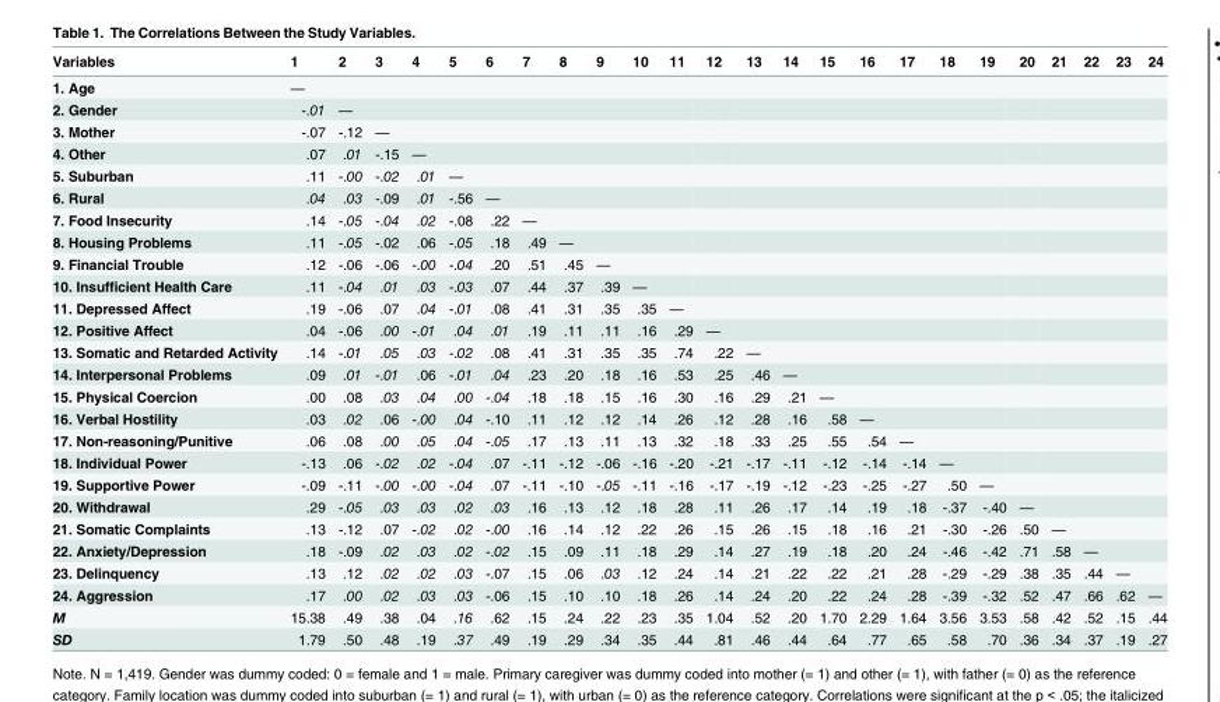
<table><thead><tr><td>Variables</td><td>1</td><td>2</td><td>3</td><td>4</td><td>5</td><td>6</td><td>7</td><td>8</td><td>9</td><td>10</td><td>11</td><td>12</td><td>13</td><td>14</td><td>15</td><td>16</td><td>17</td><td>18</td><td>19</td><td>20</td><td>21</td><td>22</td><td>23</td><td>24</td></tr></thead><tbody><tr><td>1. Age</td><td>—</td><td></td><td></td><td></td><td></td><td></td><td></td><td></td><td></td><td></td><td></td><td></td><td></td><td></td><td></td><td></td><td></td><td></td><td></td><td></td><td></td><td></td><td></td><td></td></tr><tr><td>2. Gender</td><td>-.01</td><td>—</td><td></td><td></td><td></td><td></td><td></td><td></td><td></td><td></td><td></td><td></td><td></td><td></td><td></td><td></td><td></td><td></td><td></td><td></td><td></td><td></td><td></td><td></td></tr><tr><td>3. Mother</td><td>-.07</td><td>-.12</td><td>—</td><td></td><td></td><td></td><td></td><td></td><td></td><td></td><td></td><td></td><td></td><td></td><td></td><td></td><td></td><td></td><td></td><td></td><td></td><td></td><td></td><td></td></tr><tr><td>4. Other</td><td>.07</td><td>.01</td><td>-.15</td><td>—</td><td></td><td></td><td></td><td></td><td></td><td></td><td></td><td></td><td></td><td></td><td></td><td></td><td></td><td></td><td></td><td></td><td></td><td></td><td></td><td></td></tr><tr><td>5. Suburban</td><td>.11</td><td>-.00</td><td>-.02</td><td>.01</td><td>—</td><td></td><td></td><td></td><td></td><td></td><td></td><td></td><td></td><td></td><td></td><td></td><td></td><td></td><td></td><td></td><td></td><td></td><td></td><td></td></tr><tr><td>6. Rural</td><td>.04</td><td>.03</td><td>-.09</td><td>.01</td><td>-.56</td><td>—</td><td></td><td></td><td></td><td></td><td></td><td></td><td></td><td></td><td></td><td></td><td></td><td></td><td></td><td></td><td></td><td></td><td></td><td></td></tr><tr><td>7. Food Insecurity</td><td>.14</td><td>-.05</td><td>-.04</td><td>.02</td><td>-.08</td><td>.22</td><td>—</td><td></td><td></td><td></td><td></td><td></td><td></td><td></td><td></td><td></td><td></td><td></td><td></td><td></td><td></td><td></td><td></td><td></td></tr><tr><td>8. Housing Problems</td><td>.11</td><td>-.05</td><td>-.02</td><td>.06</td><td>-.05</td><td>.18</td><td>.49</td><td>—</td><td></td><td></td><td></td><td></td><td></td><td></td><td></td><td></td><td></td><td></td><td></td><td></td><td></td><td></td><td></td><td></td></tr><tr><td>9. Financial Trouble</td><td>.12</td><td>-.06</td><td>-.06</td><td>-.00</td><td>-.04</td><td>.20</td><td>.51</td><td>.45</td><td>—</td><td></td><td></td><td></td><td></td><td></td><td></td><td></td><td></td><td></td><td></td><td></td><td></td><td></td><td></td><td></td></tr><tr><td>10. Insufficient Health Care</td><td>.11</td><td>-.04</td><td>.01</td><td>.03</td><td>-.03</td><td>.07</td><td>.44</td><td>.37</td><td>.39</td><td>—</td><td></td><td></td><td></td><td></td><td></td><td></td><td></td><td></td><td></td><td></td><td></td><td></td><td></td><td></td></tr><tr><td>11. Depressed Affect</td><td>.19</td><td>-.06</td><td>.07</td><td>.04</td><td>-.01</td><td>.08</td><td>.41</td><td>.31</td><td>.35</td><td>.35</td><td>—</td><td></td><td></td><td></td><td></td><td></td><td></td><td></td><td></td><td></td><td></td><td></td><td></td><td></td></tr><tr><td>12. Positive Affect</td><td>.04</td><td>-.06</td><td>.00</td><td>-.01</td><td>.04</td><td>.01</td><td>.19</td><td>.11</td><td>.11</td><td>.16</td><td>.29</td><td>—</td><td></td><td></td><td></td><td></td><td></td><td></td><td></td><td></td><td></td><td></td><td></td><td></td></tr><tr><td>13. Somatic and Retarded Activity</td><td>.14</td><td>-.01</td><td>.05</td><td>.03</td><td>-.02</td><td>.08</td><td>.41</td><td>.31</td><td>.35</td><td>.35</td><td>.74</td><td>.22</td><td>—</td><td></td><td></td><td></td><td></td><td></td><td></td><td></td><td></td><td></td><td></td><td></td></tr><tr><td>14. Interpersonal Problems</td><td>.09</td><td>.01</td><td>-.01</td><td>.06</td><td>-.01</td><td>.04</td><td>.23</td><td>.20</td><td>.18</td><td>.16</td><td>.53</td><td>.25</td><td>.46</td><td>—</td><td></td><td></td><td></td><td></td><td></td><td></td><td></td><td></td><td></td><td></td></tr><tr><td>15. Physical Coercion</td><td>.00</td><td>.08</td><td>.03</td><td>.04</td><td>.00</td><td>-.04</td><td>.18</td><td>.18</td><td>.15</td><td>.16</td><td>.30</td><td>.16</td><td>.29</td><td>.21</td><td>—</td><td></td><td></td><td></td><td></td><td></td><td></td><td></td><td></td><td></td></tr><tr><td>16. Verbal Hostility</td><td>.03</td><td>.02</td><td>.06</td><td>-.00</td><td>.04</td><td>-.10</td><td>.11</td><td>.12</td><td>.12</td><td>.14</td><td>.26</td><td>.12</td><td>.28</td><td>.16</td><td>.58</td><td>—</td><td></td><td></td><td></td><td></td><td></td><td></td><td></td><td></td></tr><tr><td>17. Non-reasoning/Punitive</td><td>.06</td><td>.08</td><td>.00</td><td>.05</td><td>.04</td><td>-.05</td><td>.17</td><td>.13</td><td>.11</td><td>.13</td><td>.32</td><td>.18</td><td>.33</td><td>.25</td><td>.55</td><td>.54</td><td>—</td><td></td><td></td><td></td><td></td><td></td><td></td><td></td></tr><tr><td>18. Individual Power</td><td>-.13</td><td>.06</td><td>-.02</td><td>.02</td><td>-.04</td><td>.07</td><td>-.11</td><td>-.12</td><td>-.06</td><td>-.16</td><td>-.20</td><td>-.21</td><td>-.17</td><td>-.11</td><td>-.12</td><td>-.14</td><td>-.14</td><td>—</td><td></td><td></td><td></td><td></td><td></td><td></td></tr><tr><td>19. Supportive Power</td><td>-.09</td><td>-.11</td><td>-.00</td><td>-.00</td><td>-.04</td><td>.07</td><td>-.11</td><td>-.10</td><td>-.05</td><td>-.11</td><td>-.16</td><td>-.17</td><td>-.19</td><td>-.12</td><td>-.23</td><td>-.25</td><td>-.27</td><td>.50</td><td>—</td><td></td><td></td><td></td><td></td><td></td></tr><tr><td>20. Withdrawal</td><td>.29</td><td>-.05</td><td>.03</td><td>.03</td><td>.02</td><td>.03</td><td>.16</td><td>.13</td><td>.12</td><td>.18</td><td>.28</td><td>.11</td><td>.26</td><td>.17</td><td>.14</td><td>.19</td><td>.18</td><td>-.37</td><td>-.40</td><td>—</td><td></td><td></td><td></td><td></td></tr><tr><td>21. Somatic Complaints</td><td>.13</td><td>-.12</td><td>.07</td><td>-.02</td><td>.02</td><td>-.00</td><td>.16</td><td>.14</td><td>.12</td><td>.22</td><td>.26</td><td>.15</td><td>.26</td><td>.15</td><td>.18</td><td>.16</td><td>.21</td><td>-.30</td><td>-.26</td><td>.50</td><td>—</td><td></td><td></td><td></td></tr><tr><td>22. Anxiety/Depression</td><td>.18</td><td>-.09</td><td>.02</td><td>.03</td><td>.02</td><td>-.02</td><td>.15</td><td>.09</td><td>.11</td><td>.18</td><td>.29</td><td>.14</td><td>.27</td><td>.19</td><td>.18</td><td>.20</td><td>.24</td><td>-.46</td><td>-.42</td><td>.71</td><td>.58</td><td>—</td><td></td><td></td></tr><tr><td>23. Delinquency</td><td>.13</td><td>.12</td><td>.02</td><td>.02</td><td>.03</td><td>-.07</td><td>.15</td><td>.06</td><td>.03</td><td>.12</td><td>.24</td><td>.14</td><td>.21</td><td>.22</td><td>.22</td><td>.21</td><td>.28</td><td>-.29</td><td>-.29</td><td>.38</td><td>.35</td><td>.44</td><td>—</td><td></td></tr><tr><td>24. Aggression</td><td>.17</td><td>.00</td><td>.02</td><td>.03</td><td>.03</td><td>-.06</td><td>.15</td><td>.10</td><td>.10</td><td>.18</td><td>.26</td><td>.14</td><td>.24</td><td>.20</td><td>.22</td><td>.24</td><td>.28</td><td>-.39</td><td>-.32</td><td>.52</td><td>.47</td><td>.66</td><td>.62</td><td>—</td></tr><tr><td>M</td><td>15.38</td><td>.49</td><td>.38</td><td>.04</td><td>.16</td><td>.62</td><td>.15</td><td>.24</td><td>.22</td><td>.23</td><td>.35</td><td>1.04</td><td>.52</td><td>.20</td><td>1.70</td><td>2.29</td><td>1.64</td><td>3.56</td><td>3.53</td><td>.58</td><td>.42</td><td>.52</td><td>.15</td><td>.44</td></tr><tr><td>SD</td><td>1.79</td><td>.50</td><td>.48</td><td>.19</td><td>.37</td><td>.49</td><td>.19</td><td>.29</td><td>.34</td><td>.35</td><td>.44</td><td>.81</td><td>.46</td><td>.44</td><td>.64</td><td>.77</td><td>.65</td><td>.58</td><td>.70</td><td>.36</td><td>.34</td><td>.37</td><td>.19</td><td>.27</td></tr></tbody></table>